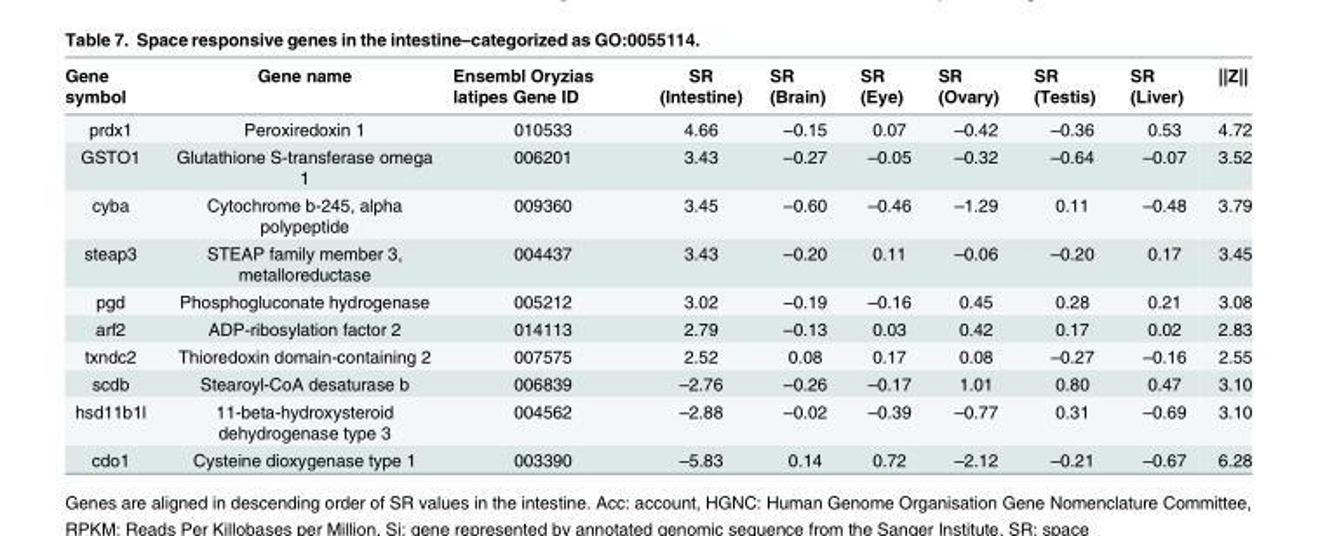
<table><thead><tr><td>Gene symbol</td><td>Gene name</td><td>Ensembl Oryzias latipes Gene ID</td><td>SR (Intestine)</td><td>SR (Brain)</td><td>SR (Eye)</td><td>SR (Ovary)</td><td>SR (Testis)</td><td>SR (Liver)</td><td>||Z||</td></tr></thead><tbody><tr><td>prdx1</td><td>Peroxiredoxin 1</td><td>010533</td><td>4.66</td><td>–0.15</td><td>0.07</td><td>–0.42</td><td>–0.36</td><td>0.53</td><td>4.72</td></tr><tr><td>GSTO1</td><td>Glutathione S-transferase omega 1</td><td>006201</td><td>3.43</td><td>–0.27</td><td>–0.05</td><td>–0.32</td><td>–0.64</td><td>–0.07</td><td>3.52</td></tr><tr><td>cyba</td><td>Cytochrome b-245, alpha polypeptide</td><td>009360</td><td>3.45</td><td>–0.60</td><td>–0.46</td><td>–1.29</td><td>0.11</td><td>–0.48</td><td>3.79</td></tr><tr><td>steap3</td><td>STEAP family member 3, metalloreductase</td><td>004437</td><td>3.43</td><td>–0.20</td><td>0.11</td><td>–0.06</td><td>–0.20</td><td>0.17</td><td>3.45</td></tr><tr><td>pgd</td><td>Phosphogluconate hydrogenase</td><td>005212</td><td>3.02</td><td>–0.19</td><td>–0.16</td><td>0.45</td><td>0.28</td><td>0.21</td><td>3.08</td></tr><tr><td>arf2</td><td>ADP-ribosylation factor 2</td><td>014113</td><td>2.79</td><td>–0.13</td><td>0.03</td><td>0.42</td><td>0.17</td><td>0.02</td><td>2.83</td></tr><tr><td>txndc2</td><td>Thioredoxin domain-containing 2</td><td>007575</td><td>2.52</td><td>0.08</td><td>0.17</td><td>0.08</td><td>–0.27</td><td>–0.16</td><td>2.55</td></tr><tr><td>scdb</td><td>Stearoyl-CoA desaturase b</td><td>006839</td><td>–2.76</td><td>–0.26</td><td>–0.17</td><td>1.01</td><td>0.80</td><td>0.47</td><td>3.10</td></tr><tr><td>hsd11b1l</td><td>11-beta-hydroxysteroid dehydrogenase type 3</td><td>004562</td><td>–2.88</td><td>–0.02</td><td>–0.39</td><td>–0.77</td><td>0.31</td><td>–0.69</td><td>3.10</td></tr><tr><td>cdo1</td><td>Cysteine dioxygenase type 1</td><td>003390</td><td>–5.83</td><td>0.14</td><td>0.72</td><td>–2.12</td><td>–0.21</td><td>–0.67</td><td>6.28</td></tr></tbody></table>